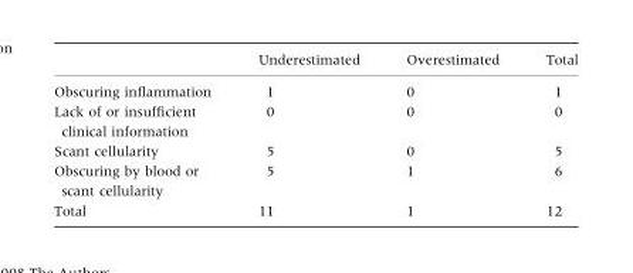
<table><thead><tr><td></td><td>Underestimated</td><td>Overestimated</td><td>Total</td></tr></thead><tbody><tr><td>Obscuring inflammation</td><td>1</td><td>0</td><td>1</td></tr><tr><td>Lack of or insufficient clinical information</td><td>0</td><td>0</td><td>0</td></tr><tr><td>Scant cellularity</td><td>5</td><td>0</td><td>5</td></tr><tr><td>Obscuring by blood or scant cellularity</td><td>5</td><td>1</td><td>6</td></tr><tr><td>Total</td><td>11</td><td>1</td><td>12</td></tr></tbody></table>